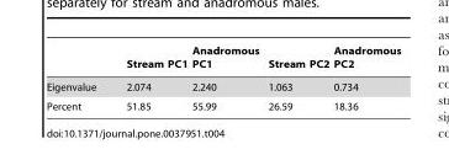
<table><thead><tr><td></td><td>Stream PC1</td><td>Anadromous PC1</td><td>Stream PC2</td><td>Anadromous PC2</td></tr></thead><tbody><tr><td>Eigenvalue</td><td>2.074</td><td>2.240</td><td>1.063</td><td>0.734</td></tr><tr><td>Percent</td><td>51.85</td><td>55.99</td><td>26.59</td><td>18.36</td></tr></tbody></table>